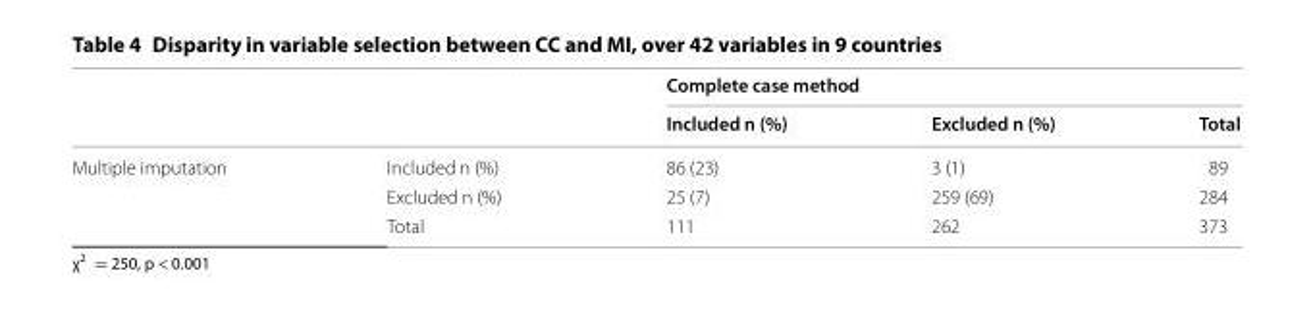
<table><thead><tr><td rowspan="2"></td><td rowspan="2"></td><td colspan="3">Complete case method</td></tr><tr><td>Included n (%)</td><td>Excluded n (%)</td><td>Total</td></tr></thead><tbody><tr><td rowspan="3">Multiple imputation</td><td>Included n (%)</td><td>86 (23)</td><td>3 (1)</td><td>89</td></tr><tr><td>Excluded n (%)</td><td>25 (7)</td><td>259 (69)</td><td>284</td></tr><tr><td>Total</td><td>111</td><td>262</td><td>373</td></tr></tbody></table>